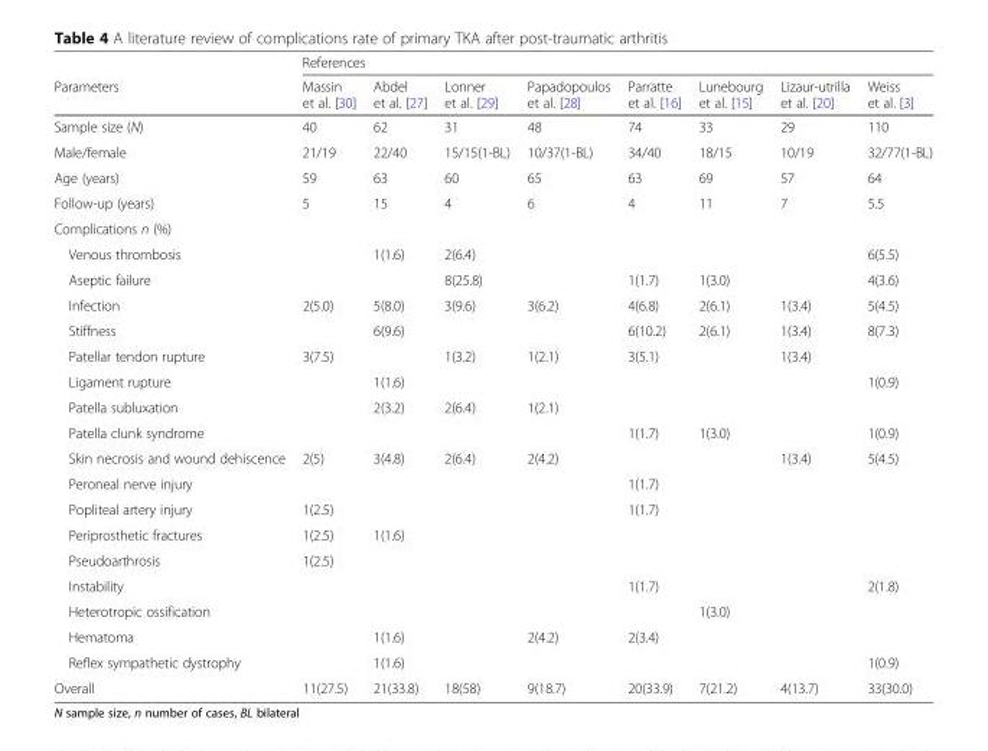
<table><thead><tr><td rowspan="2">Parameters</td><td colspan="8">References</td></tr><tr><td>Massin et al. [30]</td><td>Abdel et al. [27]</td><td>Lonner et al. [29]</td><td>Papadopoulos et al. [28]</td><td>Parratte et al. [16]</td><td>Lunebourg et al. [15]</td><td>Lizaur-utrilla et al. [20]</td><td>Weiss et al. [3]</td></tr></thead><tbody><tr><td>Sample size (N)</td><td>40</td><td>62</td><td>31</td><td>48</td><td>74</td><td>33</td><td>29</td><td>110</td></tr><tr><td>Male/female</td><td>21/19</td><td>22/40</td><td>15/15(1-BL)</td><td>10/37(1-BL)</td><td>34/40</td><td>18/15</td><td>10/19</td><td>32/77(1-BL)</td></tr><tr><td>Age (years)</td><td>59</td><td>63</td><td>60</td><td>65</td><td>63</td><td>69</td><td>57</td><td>64</td></tr><tr><td>Follow-up (years)</td><td>5</td><td>15</td><td>4</td><td>6</td><td>4</td><td>11</td><td>7</td><td>5.5</td></tr><tr><td colspan="9">Complications n (%)</td></tr><tr><td>Venous thrombosis</td><td></td><td>1(1.6)</td><td>2(6.4)</td><td></td><td></td><td></td><td></td><td>6(5.5)</td></tr><tr><td>Aseptic failure</td><td></td><td></td><td>8(25.8)</td><td></td><td>1(1.7)</td><td>1(3.0)</td><td></td><td>4(3.6)</td></tr><tr><td>Infection</td><td>2(5.0)</td><td>5(8.0)</td><td>3(9.6)</td><td>3(6.2)</td><td>4(6.8)</td><td>2(6.1)</td><td>1(3.4)</td><td>5(4.5)</td></tr><tr><td>Stiffness</td><td></td><td>6(9.6)</td><td></td><td></td><td>6(10.2)</td><td>2(6.1)</td><td>1(3.4)</td><td>8(7.3)</td></tr><tr><td>Patellar tendon rupture</td><td>3(7.5)</td><td></td><td>1(3.2)</td><td>1(2.1)</td><td>3(5.1)</td><td></td><td>1(3.4)</td><td></td></tr><tr><td>Ligament rupture</td><td></td><td>1(1.6)</td><td></td><td></td><td></td><td></td><td></td><td>1(0.9)</td></tr><tr><td>Patella subluxation</td><td></td><td>2(3.2)</td><td>2(6.4)</td><td>1(2.1)</td><td></td><td></td><td></td><td></td></tr><tr><td>Patella clunk syndrome</td><td></td><td></td><td></td><td></td><td>1(1.7)</td><td>1(3.0)</td><td></td><td>1(0.9)</td></tr><tr><td>Skin necrosis and wound dehiscence</td><td>2(5)</td><td>3(4.8)</td><td>2(6.4)</td><td>2(4.2)</td><td></td><td></td><td>1(3.4)</td><td>5(4.5)</td></tr><tr><td>Peroneal nerve injury</td><td></td><td></td><td></td><td></td><td>1(1.7)</td><td></td><td></td><td></td></tr><tr><td>Popliteal artery injury</td><td>1(2.5)</td><td></td><td></td><td></td><td>1(1.7)</td><td></td><td></td><td></td></tr><tr><td>Periprosthetic fractures</td><td>1(2.5)</td><td>1(1.6)</td><td></td><td></td><td></td><td></td><td></td><td></td></tr><tr><td>Pseudoarthrosis</td><td>1(2.5)</td><td></td><td></td><td></td><td></td><td></td><td></td><td></td></tr><tr><td>Instability</td><td></td><td></td><td></td><td></td><td>1(1.7)</td><td></td><td></td><td>2(1.8)</td></tr><tr><td>Heterotropic ossification</td><td></td><td></td><td></td><td></td><td></td><td>1(3.0)</td><td></td><td></td></tr><tr><td>Hematoma</td><td></td><td>1(1.6)</td><td></td><td>2(4.2)</td><td>2(3.4)</td><td></td><td></td><td></td></tr><tr><td>Reflex sympathetic dystrophy</td><td></td><td>1(1.6)</td><td></td><td></td><td></td><td></td><td></td><td>1(0.9)</td></tr><tr><td>Overall</td><td>11(27.5)</td><td>21(33.8)</td><td>18(58)</td><td>9(18.7)</td><td>20(33.9)</td><td>7(21.2)</td><td>4(13.7)</td><td>33(30.0)</td></tr></tbody></table>